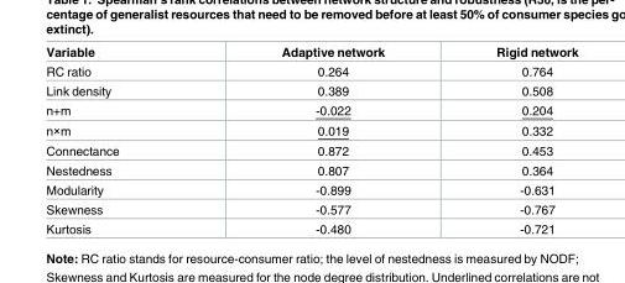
<table><thead><tr><td>Variable</td><td>Adaptive network</td><td>Rigid network</td></tr></thead><tbody><tr><td>RC ratio</td><td>0.264</td><td>0.764</td></tr><tr><td>Link density</td><td>0.389</td><td>0.508</td></tr><tr><td>n+m</td><td>-0.022</td><td>0.204</td></tr><tr><td>n×m</td><td>0.019</td><td>0.332</td></tr><tr><td>Connectance</td><td>0.872</td><td>0.453</td></tr><tr><td>Nestedness</td><td>0.807</td><td>0.364</td></tr><tr><td>Modularity</td><td>-0.899</td><td>-0.631</td></tr><tr><td>Skewness</td><td>-0.577</td><td>-0.767</td></tr><tr><td>Kurtosis</td><td>-0.480</td><td>-0.721</td></tr></tbody></table>